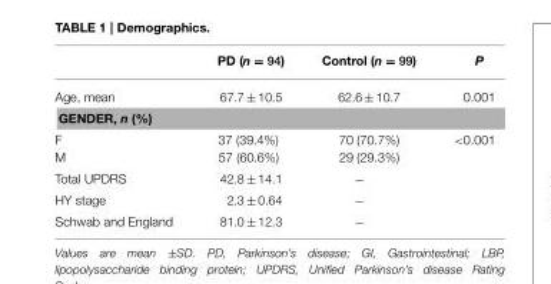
<table><thead><tr><td></td><td>PD (n = 94)</td><td>Control (n = 99)</td><td>P</td></tr></thead><tbody><tr><td>Age, mean</td><td>67.7 ± 10.5</td><td>62.6 ± 10.7</td><td>0.001</td></tr><tr><td colspan="4">GENDER, n (%)</td></tr><tr><td>F M</td><td>37 (39.4%) 57 (60.6%)</td><td>70 (70.7%) 29 (29.3%)</td><td>&lt;0.001</td></tr><tr><td>Total UPDRS</td><td>42.8 ± 14.1</td><td>−</td><td></td></tr><tr><td>HY stage</td><td>2.3 ± 0.64</td><td>−</td><td></td></tr><tr><td>Schwab and England</td><td>81.0 ± 12.3</td><td>−</td><td></td></tr></tbody></table>